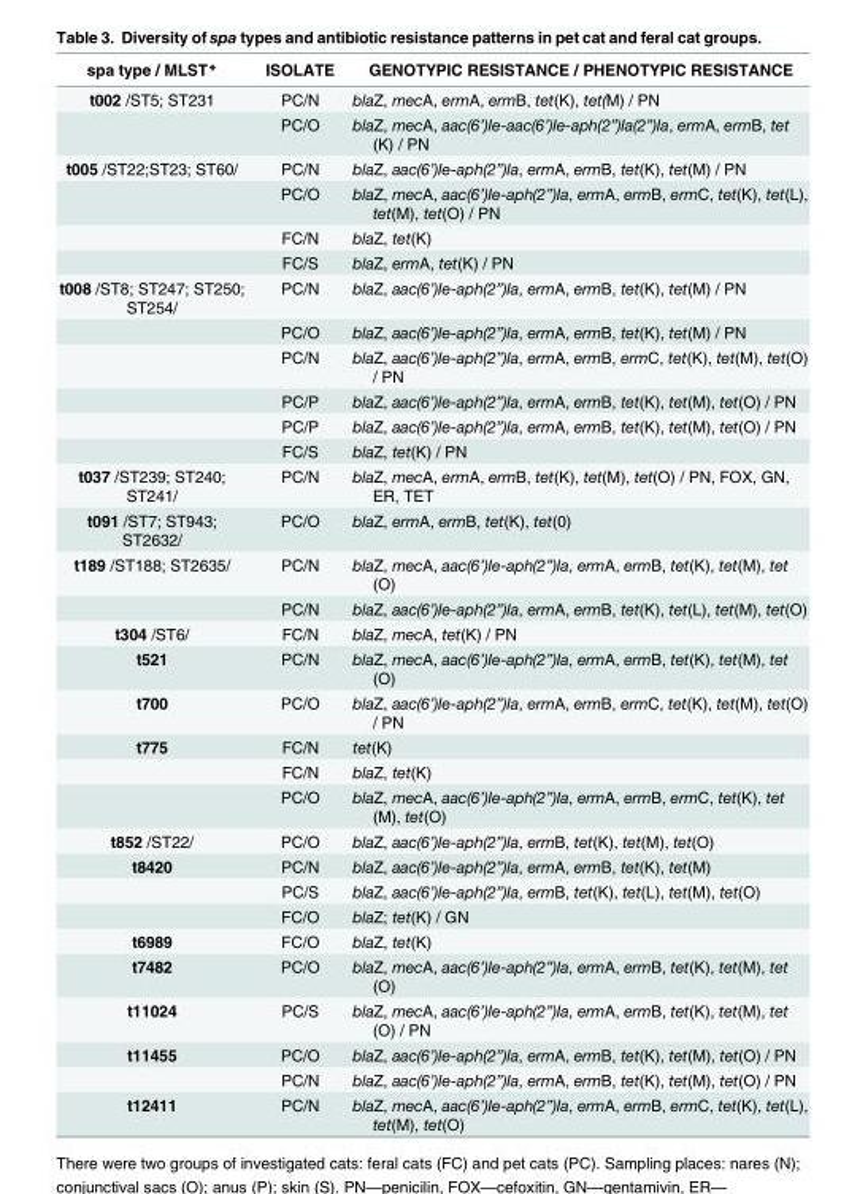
<table><thead><tr><td>spa type / MLST*</td><td>ISOLATE</td><td>GENOTYPIC RESISTANCE / PHENOTYPIC RESISTANCE</td></tr></thead><tbody><tr><td rowspan="2">t002 /ST5; ST231</td><td>PC/N</td><td>blaZ, mecA, ermA, ermB, tet(K), tet(M) / PN</td></tr><tr><td>PC/O</td><td>blaZ, mecA, aac(6’)Ie-aac(6’)Ie-aph(2”)Ia(2”)Ia, ermA, ermB, tet (K) / PN</td></tr><tr><td rowspan="4">t005 /ST22;ST23; ST60/</td><td>PC/N</td><td>blaZ, aac(6’)Ie-aph(2”)Ia, ermA, ermB, tet(K), tet(M) / PN</td></tr><tr><td>PC/O</td><td>blaZ, mecA, aac(6’)Ie-aph(2”)Ia, ermA, ermB, ermC, tet(K), tet(L), tet(M), tet(O) / PN</td></tr><tr><td>FC/N</td><td>blaZ, tet(K)</td></tr><tr><td>FC/S</td><td>blaZ, ermA, tet(K) / PN</td></tr><tr><td rowspan="6">t008 /ST8; ST247; ST250; ST254/</td><td>PC/N</td><td>blaZ, aac(6’)Ie-aph(2”)Ia, ermA, ermB, tet(K), tet(M) / PN</td></tr><tr><td>PC/O</td><td>blaZ, aac(6’)Ie-aph(2”)Ia, ermA, ermB, tet(K), tet(M) / PN</td></tr><tr><td>PC/N</td><td>blaZ, aac(6’)Ie-aph(2”)Ia, ermA, ermB, ermC, tet(K), tet(M), tet(O) / PN</td></tr><tr><td>PC/P</td><td>blaZ, aac(6’)Ie-aph(2”)Ia, ermA, ermB, tet(K), tet(M), tet(O) / PN</td></tr><tr><td>PC/P</td><td>blaZ, aac(6’)Ie-aph(2”)Ia, ermA, ermB, tet(K), tet(M), tet(O) / PN</td></tr><tr><td>FC/S</td><td>blaZ, tet(K) / PN</td></tr><tr><td>t037 /ST239; ST240; ST241/</td><td>PC/N</td><td>blaZ, mecA, ermA, ermB, tet(K), tet(M), tet(O) / PN, FOX, GN, ER, TET</td></tr><tr><td>t091 /ST7; ST943; ST2632/</td><td>PC/O</td><td>blaZ, ermA, ermB, tet(K), tet(0)</td></tr><tr><td rowspan="2">t189 /ST188; ST2635/</td><td>PC/N</td><td>blaZ, mecA, aac(6’)Ie-aph(2”)Ia, ermA, ermB, tet(K), tet(M), tet (O)</td></tr><tr><td>PC/N</td><td>blaZ, aac(6’)Ie-aph(2”)Ia, ermA, ermB, tet(K), tet(L), tet(M), tet(O)</td></tr><tr><td>t304 /ST6/</td><td>FC/N</td><td>blaZ, mecA, tet(K) / PN</td></tr><tr><td>t521</td><td>PC/N</td><td>blaZ, mecA, aac(6’)Ie-aph(2”)Ia, ermA, ermB, tet(K), tet(M), tet (O)</td></tr><tr><td>t700</td><td>PC/O</td><td>blaZ, aac(6’)Ie-aph(2”)Ia, ermA, ermB, ermC, tet(K), tet(M), tet(O) / PN</td></tr><tr><td rowspan="3">t775</td><td>FC/N</td><td>tet(K)</td></tr><tr><td>FC/N</td><td>blaZ, tet(K)</td></tr><tr><td>PC/O</td><td>blaZ, mecA, aac(6’)Ie-aph(2”)Ia, ermA, ermB, ermC, tet(K), tet (M), tet(O)</td></tr><tr><td>t852 /ST22/</td><td>PC/O</td><td>blaZ, aac(6’)Ie-aph(2”)Ia, ermB, tet(K), tet(M), tet(O)</td></tr><tr><td rowspan="3">t8420</td><td>PC/N</td><td>blaZ, aac(6’)Ie-aph(2”)Ia, ermA, ermB, tet(K), tet(M)</td></tr><tr><td>PC/S</td><td>blaZ, aac(6’)Ie-aph(2”)Ia, ermB, tet(K), tet(L), tet(M), tet(O)</td></tr><tr><td>FC/O</td><td>blaZ; tet(K) / GN</td></tr><tr><td>t6989</td><td>FC/O</td><td>blaZ, tet(K)</td></tr><tr><td>t7482</td><td>PC/O</td><td>blaZ, mecA, aac(6’)Ie-aph(2”)Ia, ermA, ermB, tet(K), tet(M), tet (O)</td></tr><tr><td>t11024</td><td>PC/S</td><td>blaZ, mecA, aac(6’)Ie-aph(2”)Ia, ermA, ermB, tet(K), tet(M), tet (O) / PN</td></tr><tr><td rowspan="2">t11455</td><td>PC/O</td><td>blaZ, aac(6’)Ie-aph(2”)Ia, ermA, ermB, tet(K), tet(M), tet(O) / PN</td></tr><tr><td>PC/N</td><td>blaZ, aac(6’)Ie-aph(2”)Ia, ermA, ermB, tet(K), tet(M), tet(O) / PN</td></tr><tr><td>t12411</td><td>PC/N</td><td>blaZ, mecA, aac(6’)Ie-aph(2”)Ia, ermA, ermB, ermC, tet(K), tet(L), tet(M), tet(O)</td></tr></tbody></table>